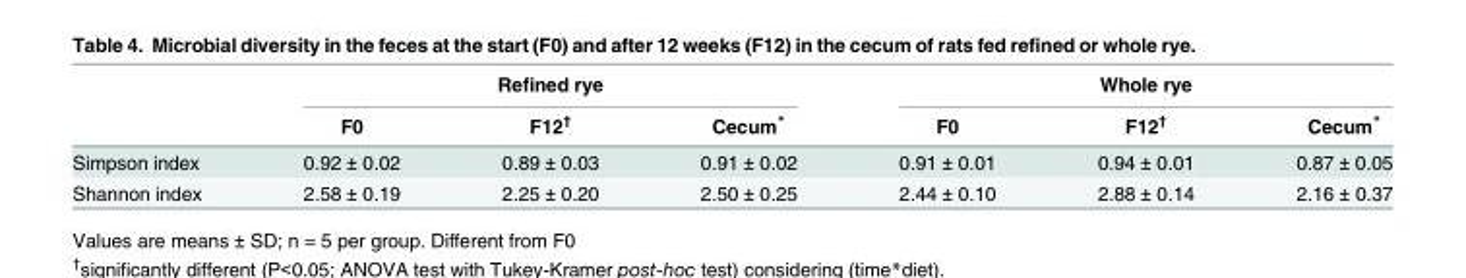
<table><thead><tr><td rowspan="2"></td><td colspan="3">Refined rye</td><td colspan="3">Whole rye</td></tr><tr><td>F0</td><td>F12<sup>†</sup></td><td>Cecum*</td><td>F0</td><td>F12<sup>†</sup></td><td>Cecum*</td></tr></thead><tbody><tr><td>Simpson index</td><td>0.92 ± 0.02</td><td>0.89 ± 0.03</td><td>0.91 ± 0.02</td><td>0.91 ± 0.01</td><td>0.94 ± 0.01</td><td>0.87 ± 0.05</td></tr><tr><td>Shannon index</td><td>2.58 ± 0.19</td><td>2.25 ± 0.20</td><td>2.50 ± 0.25</td><td>2.44 ± 0.10</td><td>2.88 ± 0.14</td><td>2.16 ± 0.37</td></tr></tbody></table>